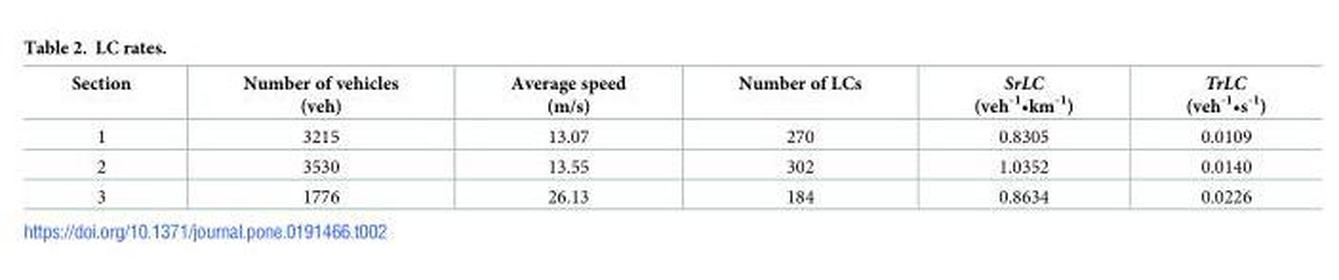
<table><thead><tr><td>Section</td><td>Number of vehicles (veh)</td><td>Average speed (m/s)</td><td>Number of LCs</td><td>SrLC (veh<sup>-1</sup>•km<sup>-1</sup>)</td><td>TrLC (veh<sup>-1</sup>•s<sup>-1</sup>)</td></tr></thead><tbody><tr><td>1</td><td>3215</td><td>13.07</td><td>270</td><td>0.8305</td><td>0.0109</td></tr><tr><td>2</td><td>3530</td><td>13.55</td><td>302</td><td>1.0352</td><td>0.0140</td></tr><tr><td>3</td><td>1776</td><td>26.13</td><td>184</td><td>0.8634</td><td>0.0226</td></tr></tbody></table>